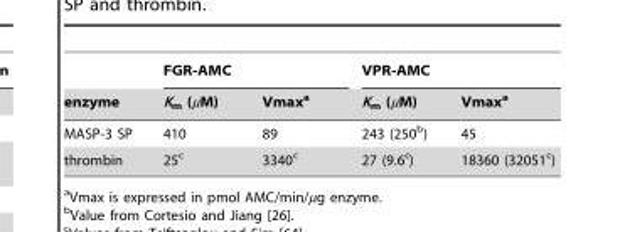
<table><thead><tr><td rowspan="2">enzyme</td><td colspan="2">FGR-AMC</td><td colspan="2">VPR-AMC</td></tr><tr><td>K<sub>m</sub> (µM)</td><td>Vmax<sup>a</sup></td><td>K<sub>m</sub> (µM)</td><td>Vmax<sup>a</sup></td></tr></thead><tbody><tr><td>MASP-3 SP</td><td>410</td><td>89</td><td>243 (250<sup>b</sup>)</td><td>45</td></tr><tr><td>thrombin</td><td>25<sup>c</sup></td><td>3340<sup>c</sup></td><td>27 (9.6<sup>c</sup>)</td><td>18360 (32051<sup>c</sup>)</td></tr></tbody></table>